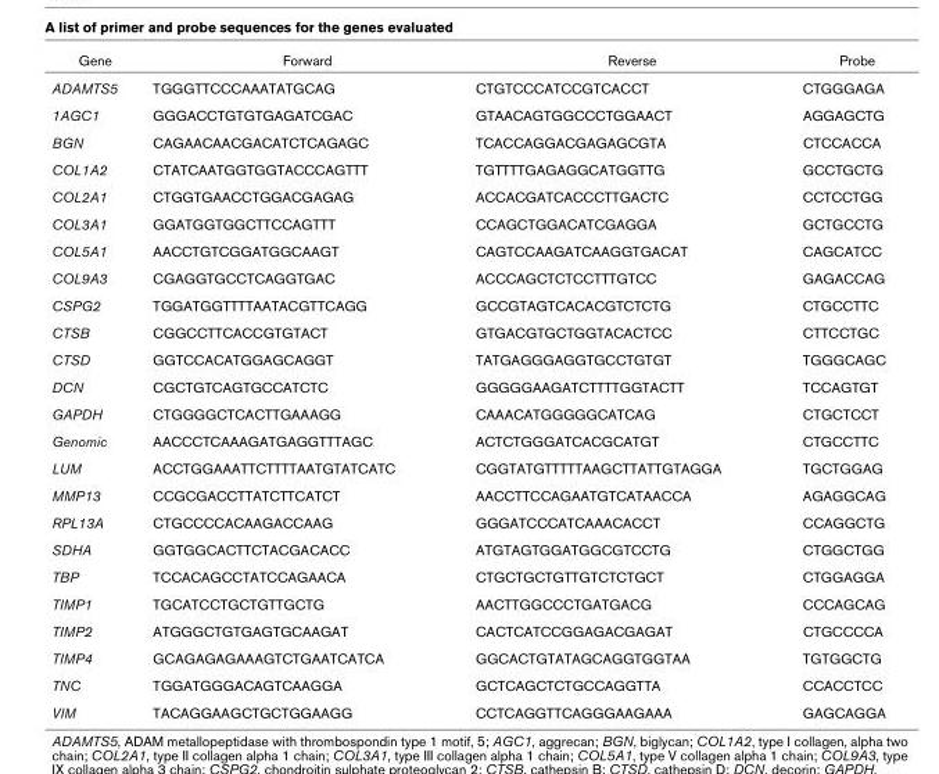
<table><thead><tr><td>Gene</td><td>Forward</td><td>Reverse</td><td>Probe</td></tr></thead><tbody><tr><td>ADAMTS5</td><td>TGGGTTCCCAAATATGCAG</td><td>CTGTCCCATCCGTCACCT</td><td>CTGGGAGA</td></tr><tr><td>1AGC1</td><td>GGGACCTGTGTGAGATCGAC</td><td>GTAACAGTGGCCCTGGAACT</td><td>AGGAGCTG</td></tr><tr><td>BGN</td><td>CAGAACAACGACATCTCAGAGC</td><td>TCACCAGGACGAGAGCGTA</td><td>CTCCACCA</td></tr><tr><td>COL1A2</td><td>CTATCAATGGTGGTACCCAGTTT</td><td>TGTTTTGAGAGGCATGGTTG</td><td>GCCTGCTG</td></tr><tr><td>COL2A1</td><td>CTGGTGAACCTGGACGAGAG</td><td>ACCACGATCACCCTTGACTC</td><td>CCTCCTGG</td></tr><tr><td>COL3A1</td><td>GGATGGTGGCTTCCAGTTT</td><td>CCAGCTGGACATCGAGGA</td><td>GCTGCCTG</td></tr><tr><td>COL5A1</td><td>AACCTGTCGGATGGCAAGT</td><td>CAGTCCAAGATCAAGGTGACAT</td><td>CAGCATCC</td></tr><tr><td>COL9A3</td><td>CGAGGTGCCTCAGGTGAC</td><td>ACCCAGCTCTCCTTTGTCC</td><td>GAGACCAG</td></tr><tr><td>CSPG2</td><td>TGGATGGTTTTAATACGTTCAGG</td><td>GCCGTAGTCACACGTCTCTG</td><td>CTGCCTTC</td></tr><tr><td>CTSB</td><td>CGGCCTTCACCGTGTACT</td><td>GTGACGTGCTGGTACACTCC</td><td>CTTCCTGC</td></tr><tr><td>CTSD</td><td>GGTCCACATGGAGCAGGT</td><td>TATGAGGGAGGTGCCTGTGT</td><td>TGGGCAGC</td></tr><tr><td>DCN</td><td>CGCTGTCAGTGCCATCTC</td><td>GGGGGAAGATCTTTTGGTACTT</td><td>TCCAGTGT</td></tr><tr><td>GAPDH</td><td>CTGGGGCTCACTTGAAAGG</td><td>CAAACATGGGGGCATCAG</td><td>CTGCTCCT</td></tr><tr><td>Genomic</td><td>AACCCTCAAAGATGAGGTTTAGC</td><td>ACTCTGGGATCACGCATGT</td><td>CTGCCTTC</td></tr><tr><td>LUM</td><td>ACCTGGAAATTCTTTTAATGTATCATC</td><td>CGGTATGTTTTTAAGCTTATTGTAGGA</td><td>TGCTGGAG</td></tr><tr><td>MMP13</td><td>CCGCGACCTTATCTTCATCT</td><td>AACCTTCCAGAATGTCATAACCA</td><td>AGAGGCAG</td></tr><tr><td>RPL13A</td><td>CTGCCCCACAAGACCAAG</td><td>GGGATCCCATCAAACACCT</td><td>CCAGGCTG</td></tr><tr><td>SDHA</td><td>GGTGGCACTTCTACGACACC</td><td>ATGTAGTGGATGGCGTCCTG</td><td>CTGGCTGG</td></tr><tr><td>TBP</td><td>TCCACAGCCTATCCAGAACA</td><td>CTGCTGCTGTTGTCTCTGCT</td><td>CTGGAGGA</td></tr><tr><td>TIMP1</td><td>TGCATCCTGCTGTTGCTG</td><td>AACTTGGCCCTGATGACG</td><td>CCCAGCAG</td></tr><tr><td>TIMP2</td><td>ATGGGCTGTGAGTGCAAGAT</td><td>CACTCATCCGGAGACGAGAT</td><td>CTGCCCCA</td></tr><tr><td>TIMP4</td><td>GCAGAGAGAAAGTCTGAATCATCA</td><td>GGCACTGTATAGCAGGTGGTAA</td><td>TGTGGCTG</td></tr><tr><td>TNC</td><td>TGGATGGGACAGTCAAGGA</td><td>GCTCAGCTCTGCCAGGTTA</td><td>CCACCTCC</td></tr><tr><td>VIM</td><td>TACAGGAAGCTGCTGGAAGG</td><td>CCTCAGGTTCAGGGAAGAAA</td><td>GAGCAGGA</td></tr></tbody></table>